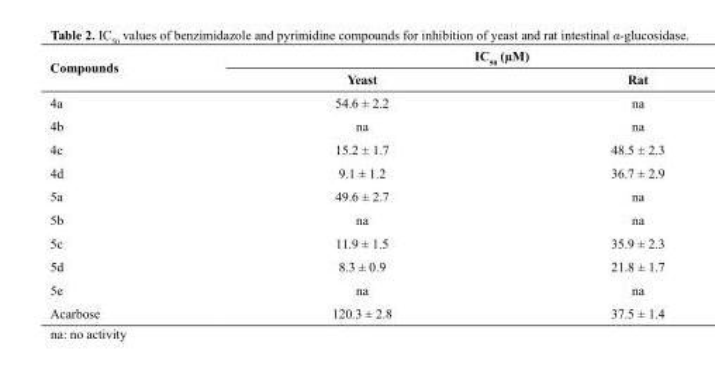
<table><thead><tr><td rowspan="2">Compounds</td><td colspan="2">IC<sub>50</sub> (µM)</td></tr><tr><td>Yeast</td><td>Rat</td></tr></thead><tbody><tr><td>4a</td><td>54.6 ± 2.2</td><td>na</td></tr><tr><td>4b</td><td>na</td><td>na</td></tr><tr><td>4c</td><td>15.2 ± 1.7</td><td>48.5 ± 2.3</td></tr><tr><td>4d</td><td>9.1 ± 1.2</td><td>36.7 ± 2.9</td></tr><tr><td>5a</td><td>49.6 ± 2.7</td><td>na</td></tr><tr><td>5b</td><td>na</td><td>na</td></tr><tr><td>5c</td><td>11.9 ± 1.5</td><td>35.9 ± 2.3</td></tr><tr><td>5d</td><td>8.3 ± 0.9</td><td>21.8 ± 1.7</td></tr><tr><td>5e</td><td>na</td><td>na</td></tr><tr><td>Acarbose</td><td>120.3 ± 2.8</td><td>37.5 ± 1.4</td></tr></tbody></table>